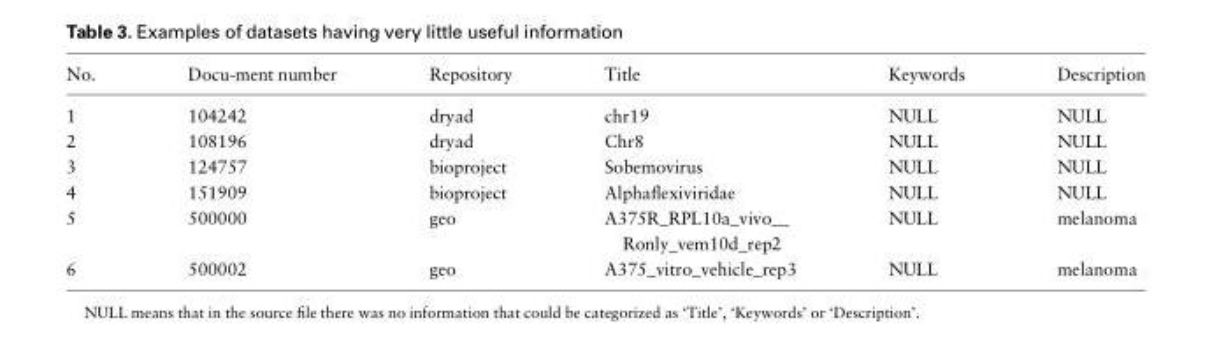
<table><thead><tr><td>No.</td><td>Docu-ment number</td><td>Repository</td><td>Title</td><td>Keywords</td><td>Description</td></tr></thead><tbody><tr><td>1</td><td>104242</td><td>dryad</td><td>chr19</td><td>NULL</td><td>NULL</td></tr><tr><td>2</td><td>108196</td><td>dryad</td><td>Chr8</td><td>NULL</td><td>NULL</td></tr><tr><td>3</td><td>124757</td><td>bioproject</td><td>Sobemovirus</td><td>NULL</td><td>NULL</td></tr><tr><td>4</td><td>151909</td><td>bioproject</td><td>Alphaflexiviridae</td><td>NULL</td><td>NULL</td></tr><tr><td>5</td><td>500000</td><td>geo</td><td>A375R_RPL10a_vivo__ Ronly_vem10d_rep2</td><td>NULL</td><td>melanoma</td></tr><tr><td>6</td><td>500002</td><td>geo</td><td>A375_vitro_vehicle_rep3</td><td>NULL</td><td>melanoma</td></tr></tbody></table>